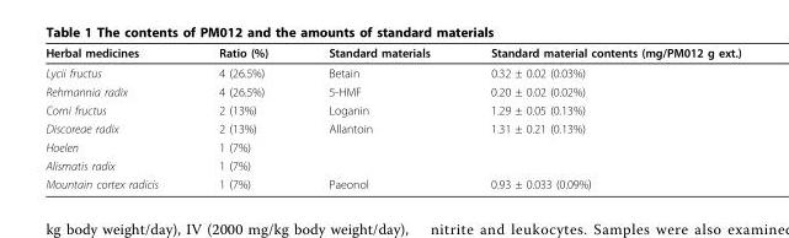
<table><thead><tr><td>Herbal medicines</td><td>Ratio (%)</td><td>Standard materials</td><td>Standard material contents (mg/PM012 g ext.)</td></tr></thead><tbody><tr><td>Lycii fructus</td><td>4 (26.5%)</td><td>Betain</td><td>0.32 ± 0.02 (0.03%)</td></tr><tr><td>Rehmannia radix</td><td>4 (26.5%)</td><td>5-HMF</td><td>0.20 ± 0.02 (0.02%)</td></tr><tr><td>Corni fructus</td><td>2 (13%)</td><td>Loganin</td><td>1.29 ± 0.05 (0.13%)</td></tr><tr><td>Discoreae radix</td><td>2 (13%)</td><td>Allantoin</td><td>1.31 ± 0.21 (0.13%)</td></tr><tr><td>Hoelen</td><td>1 (7%)</td><td></td><td></td></tr><tr><td>Alismatis radix</td><td>1 (7%)</td><td></td><td></td></tr><tr><td>Mountain cortex radicis</td><td>1 (7%)</td><td>Paeonol</td><td>0.93 ± 0.033 (0.09%)</td></tr></tbody></table>